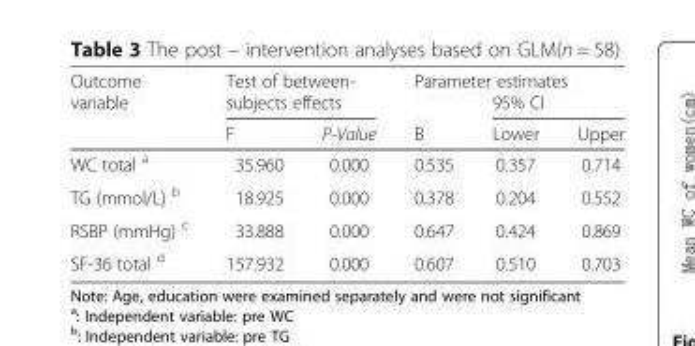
<table><thead><tr><td rowspan="3">Outcome variable</td><td rowspan="2" colspan="2">Test of between- subjects effects</td><td colspan="3">Parameter estimates</td></tr><tr><td rowspan="2">B</td><td colspan="2">95% CI</td></tr><tr><td>F</td><td>P-Value</td><td>Lower</td><td>Upper</td></tr></thead><tbody><tr><td>WC total <sup>a</sup></td><td>35.960</td><td>0.000</td><td>0.535</td><td>0.357</td><td>0.714</td></tr><tr><td>TG (mmol/L) <sup>b</sup></td><td>18.925</td><td>0.000</td><td>0.378</td><td>0.204</td><td>0.552</td></tr><tr><td>RSBP (mmHg) <sup>c</sup></td><td>33.888</td><td>0.000</td><td>0.647</td><td>0.424</td><td>0.869</td></tr><tr><td>SF-36 total <sup>d</sup></td><td>157.932</td><td>0.000</td><td>0.607</td><td>0.510</td><td>0.703</td></tr></tbody></table>